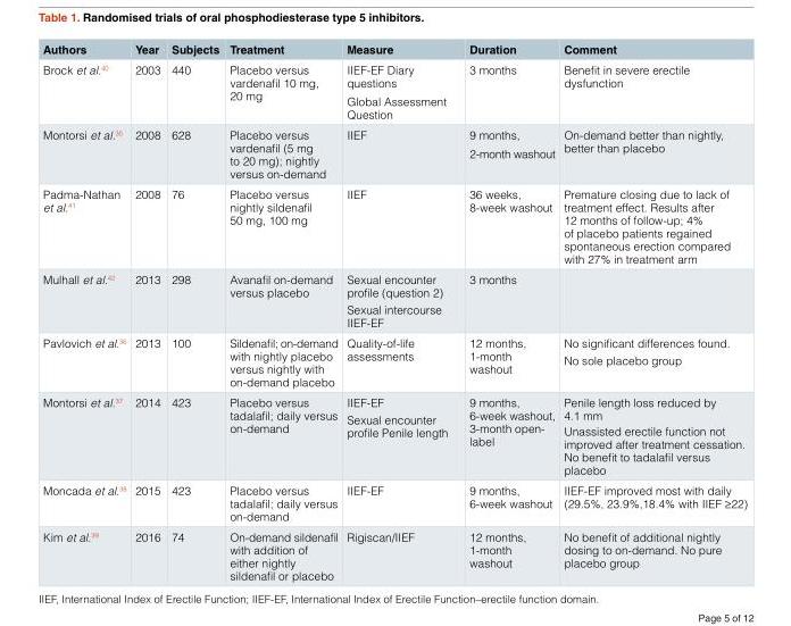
<table><thead><tr><td>Authors</td><td>Year</td><td>Subjects</td><td>Treatment</td><td>Measure</td><td>Duration</td><td>Comment</td></tr></thead><tbody><tr><td>Brock et al.<sup>40</sup></td><td>2003</td><td>440</td><td>Placebo versus vardenafil 10 mg, 20 mg</td><td>IIEF-EF Diary questions Global Assessment Question</td><td>3 months</td><td>Benefit in severe erectile dysfunction</td></tr><tr><td>Montorsi et al.<sup>35</sup></td><td>2008</td><td>628</td><td>Placebo versus vardenafil (5 mg to 20 mg); nightly versus on-demand</td><td>IIEF</td><td>9 months, 2-month washout</td><td>On-demand better than nightly, better than placebo</td></tr><tr><td>Padma-Nathan et al.<sup>41</sup></td><td>2008</td><td>76</td><td>Placebo versus nightly sildenafil 50 mg, 100 mg</td><td>IIEF</td><td>36 weeks, 8-week washout</td><td>Premature closing due to lack of treatment effect. Results after 12 months of follow-up; 4% of placebo patients regained spontaneous erection compared with 27% in treatment arm</td></tr><tr><td>Mulhall et al.<sup>42</sup></td><td>2013</td><td>298</td><td>Avanafil on-demand versus placebo</td><td>Sexual encounter profile (question 2) Sexual intercourse IIEF-EF</td><td>3 months</td><td></td></tr><tr><td>Pavlovich et al.<sup>36</sup></td><td>2013</td><td>100</td><td>Sildenafil; on-demand with nightly placebo versus nightly with on-demand placebo</td><td>Quality-of-life assessments</td><td>12 months, 1-month washout</td><td>No significant differences found. No sole placebo group</td></tr><tr><td>Montorsi et al.<sup>37</sup></td><td>2014</td><td>423</td><td>Placebo versus tadalafil; daily versus on-demand</td><td>IIEF-EF Sexual encounter profile Penile length</td><td>9 months, 6-week washout, 3-month open- label</td><td>Penile length loss reduced by 4.1 mm Unassisted erectile function not improved after treatment cessation. No benefit to tadalafil versus placebo</td></tr><tr><td>Moncada et al.<sup>38</sup></td><td>2015</td><td>423</td><td>Placebo versus tadalafil; daily versus on-demand</td><td>IIEF-EF</td><td>9 months, 6-week washout</td><td>IIEF-EF improved most with daily (29.5%, 23.9%,18.4% with IIEF ≥22)</td></tr><tr><td>Kim et al.<sup>39</sup></td><td>2016</td><td>74</td><td>On-demand sildenafil with addition of either nightly sildenafil or placebo</td><td>Rigiscan/IIEF</td><td>12 months, 1-month washout</td><td>No benefit of additional nightly dosing to on-demand. No pure placebo group</td></tr></tbody></table>